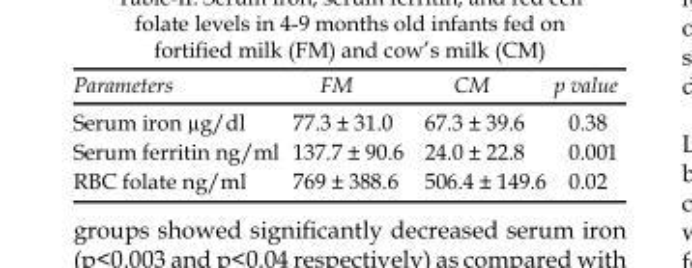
<table><thead><tr><td>Parameters</td><td>FM</td><td>CM</td><td>p value</td></tr></thead><tbody><tr><td>Serum iron µg/dl</td><td>77.3 ± 31.0</td><td>67.3 ± 39.6</td><td>0.38</td></tr><tr><td>Serum ferritin ng/ml</td><td>137.7 ± 90.6</td><td>24.0 ± 22.8</td><td>0.001</td></tr><tr><td>RBC folate ng/ml</td><td>769 ± 388.6</td><td>506.4 ± 149.6</td><td>0.02</td></tr></tbody></table>